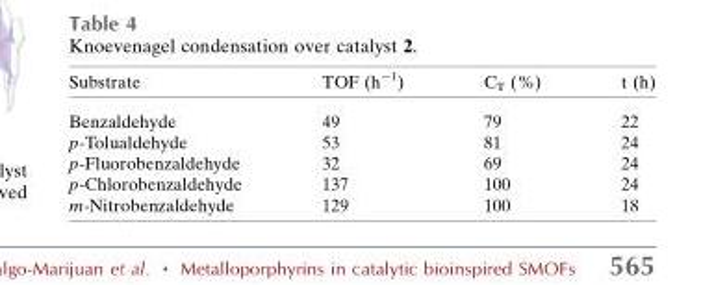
<table><thead><tr><td>Substrate</td><td>TOF (h<sup>−1</sup>)</td><td>C<sub>T</sub> (%)</td><td>t (h)</td></tr></thead><tbody><tr><td>Benzaldehyde</td><td>49</td><td>79</td><td>22</td></tr><tr><td>p-Tolualdehyde</td><td>53</td><td>81</td><td>24</td></tr><tr><td>p-Fluorobenzaldehyde</td><td>32</td><td>69</td><td>24</td></tr><tr><td>p-Chlorobenzaldehyde</td><td>137</td><td>100</td><td>24</td></tr><tr><td>m-Nitrobenzaldehyde</td><td>129</td><td>100</td><td>18</td></tr></tbody></table>